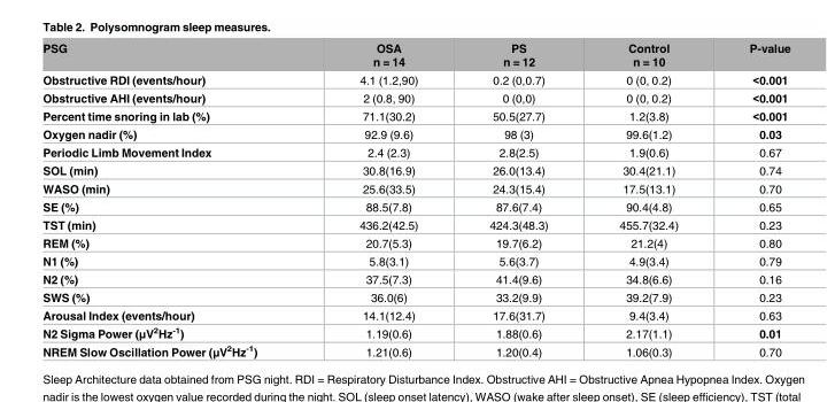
<table><thead><tr><td>PSG</td><td>OSA n = 14</td><td>PS n = 12</td><td>Control n = 10</td><td>P-value</td></tr></thead><tbody><tr><td>Obstructive RDI (events/hour)</td><td>4.1 (1.2,90)</td><td>0.2 (0,0.7)</td><td>0 (0, 0.2)</td><td>&lt;0.001</td></tr><tr><td>Obstructive AHI (events/hour)</td><td>2 (0.8, 90)</td><td>0 (0,0)</td><td>0 (0, 0.2)</td><td>&lt;0.001</td></tr><tr><td>Percent time snoring in lab (%)</td><td>71.1(30.2)</td><td>50.5(27.7)</td><td>1.2(3.8)</td><td>&lt;0.001</td></tr><tr><td>Oxygen nadir (%)</td><td>92.9 (9.6)</td><td>98 (3)</td><td>99.6(1.2)</td><td>0.03</td></tr><tr><td>Periodic Limb Movement Index</td><td>2.4 (2.3)</td><td>2.8(2.5)</td><td>1.9(0.6)</td><td>0.67</td></tr><tr><td>SOL (min)</td><td>30.8(16.9)</td><td>26.0(13.4)</td><td>30.4(21.1)</td><td>0.74</td></tr><tr><td>WASO (min)</td><td>25.6(33.5)</td><td>24.3(15.4)</td><td>17.5(13.1)</td><td>0.70</td></tr><tr><td>SE (%)</td><td>88.5(7.8)</td><td>87.6(7.4)</td><td>90.4(4.8)</td><td>0.65</td></tr><tr><td>TST (min)</td><td>436.2(42.5)</td><td>424.3(48.3)</td><td>455.7(32.4)</td><td>0.23</td></tr><tr><td>REM (%)</td><td>20.7(5.3)</td><td>19.7(6.2)</td><td>21.2(4)</td><td>0.80</td></tr><tr><td>N1 (%)</td><td>5.8(3.1)</td><td>5.6(3.7)</td><td>4.9(3.4)</td><td>0.79</td></tr><tr><td>N2 (%)</td><td>37.5(7.3)</td><td>41.4(9.6)</td><td>34.8(6.6)</td><td>0.16</td></tr><tr><td>SWS (%)</td><td>36.0(6)</td><td>33.2(9.9)</td><td>39.2(7.9)</td><td>0.23</td></tr><tr><td>Arousal Index (events/hour)</td><td>14.1(12.4)</td><td>17.6(31.7)</td><td>9.4(3.4)</td><td>0.63</td></tr><tr><td>N2 Sigma Power (μV<sup>2</sup>Hz<sup>-1</sup>)</td><td>1.19(0.6)</td><td>1.88(0.6)</td><td>2.17(1.1)</td><td>0.01</td></tr><tr><td>NREM Slow Oscillation Power (μV<sup>2</sup>Hz<sup>-1</sup>)</td><td>1.21(0.6)</td><td>1.20(0.4)</td><td>1.06(0.3)</td><td>0.70</td></tr></tbody></table>